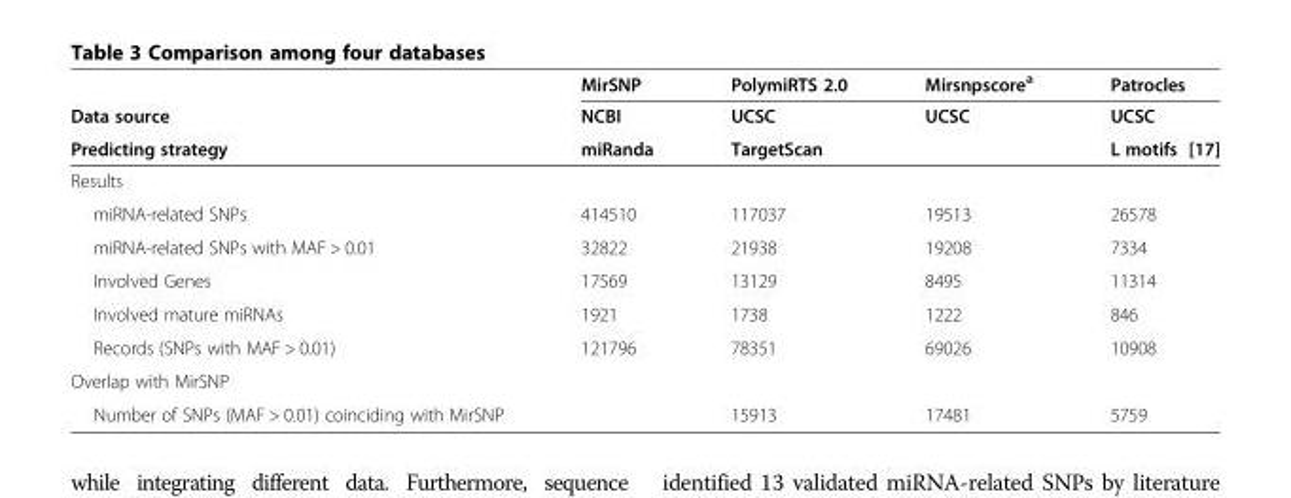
<table><thead><tr><td></td><td>MirSNP</td><td>PolymiRTS 2.0</td><td>Mirsnpscore<sup>a</sup></td><td>Patrocles</td></tr></thead><tbody><tr><td>Data source</td><td>NCBI</td><td>UCSC</td><td>UCSC</td><td>UCSC</td></tr><tr><td>Predicting strategy</td><td>miRanda</td><td>TargetScan</td><td></td><td>L motifs [17]</td></tr><tr><td colspan="5">Results</td></tr><tr><td>miRNA-related SNPs</td><td>414510</td><td>117037</td><td>19513</td><td>26578</td></tr><tr><td>miRNA-related SNPs with MAF &gt; 0.01</td><td>32822</td><td>21938</td><td>19208</td><td>7334</td></tr><tr><td>Involved Genes</td><td>17569</td><td>13129</td><td>8495</td><td>11314</td></tr><tr><td>Involved mature miRNAs</td><td>1921</td><td>1738</td><td>1222</td><td>846</td></tr><tr><td>Records (SNPs with MAF &gt; 0.01)</td><td>121796</td><td>78351</td><td>69026</td><td>10908</td></tr><tr><td colspan="5">Overlap with MirSNP</td></tr><tr><td>Number of SNPs (MAF &gt; 0.01) coinciding with MirSNP</td><td></td><td>15913</td><td>17481</td><td>5759</td></tr></tbody></table>